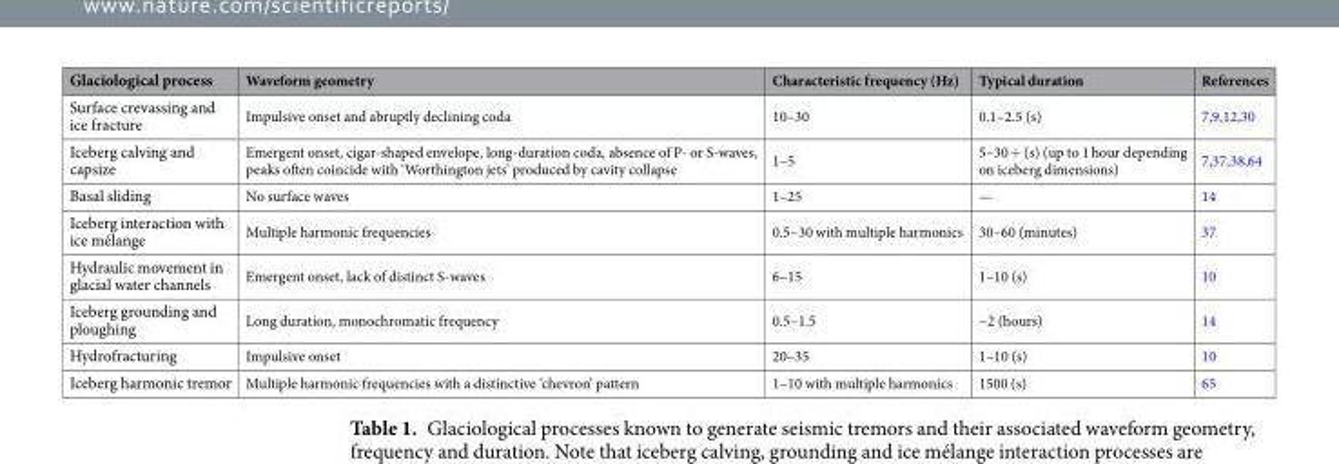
<table><thead><tr><td>Glaciological process</td><td>Waveform geometry</td><td>Characteristic frequency (Hz)</td><td>Typical duration</td><td>References</td></tr></thead><tbody><tr><td>Surface crevassing and ice fracture</td><td>Impulsive onset and abruptly declining coda</td><td>10–30</td><td>0.1–2.5 (s)</td><td>7,9,12,30</td></tr><tr><td>Iceberg calving and capsize</td><td>Emergent onset, cigar-shaped envelope, long-duration coda, absence of P- or S-waves, peaks often coincide with ‘Worthington jets’ produced by cavity collapse</td><td>1–5</td><td>5–30 + (s) (up to 1 hour depending on iceberg dimensions)</td><td>7,37,38,64</td></tr><tr><td>Basal sliding</td><td>No surface waves</td><td>1–25</td><td>—</td><td>14</td></tr><tr><td>Iceberg interaction with ice mélange</td><td>Multiple harmonic frequencies</td><td>0.5–30 with multiple harmonics</td><td>30–60 (minutes)</td><td>37</td></tr><tr><td>Hydraulic movement in glacial water channels</td><td>Emergent onset, lack of distinct S-waves</td><td>6–15</td><td>1–10 (s)</td><td>10</td></tr><tr><td>Iceberg grounding and ploughing</td><td>Long duration, monochromatic frequency</td><td>0.5–1.5</td><td>~2 (hours)</td><td>14</td></tr><tr><td>Hydrofracturing</td><td>Impulsive onset</td><td>20–35</td><td>1–10 (s)</td><td>10</td></tr><tr><td>Iceberg harmonic tremor</td><td>Multiple harmonic frequencies with a distinctive ‘chevron’ pattern</td><td>1–10 with multiple harmonics</td><td>1500 (s)</td><td>65</td></tr></tbody></table>